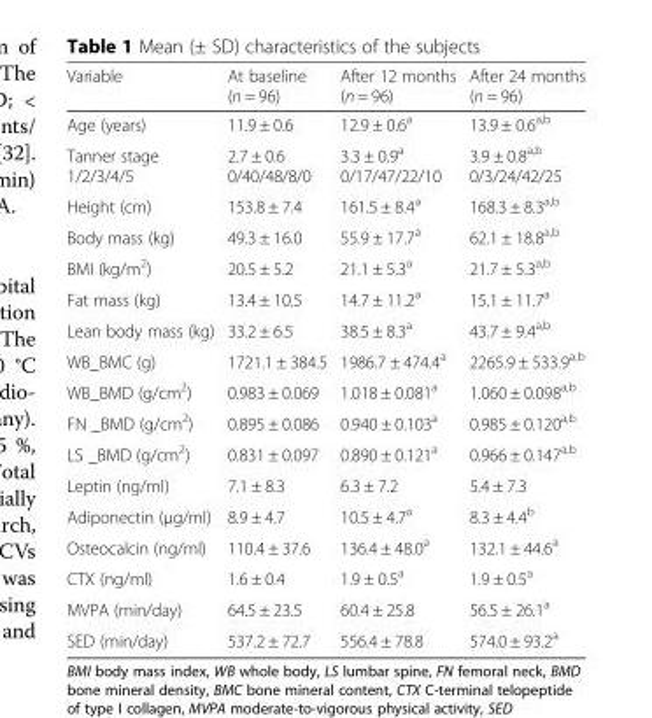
<table><thead><tr><td>Variable</td><td>At baseline (n = 96)</td><td>After 12 months (n = 96)</td><td>After 24 months (n = 96)</td></tr></thead><tbody><tr><td>Age (years)</td><td>11.9 ± 0.6</td><td>12.9 ± 0.6<sup>a</sup></td><td>13.9 ± 0.6<sup>a,b</sup></td></tr><tr><td>Tanner stage 1/2/3/4/5</td><td>2.7 ± 0.6 0/40/48/8/0</td><td>3.3 ± 0.9<sup>a</sup> 0/17/47/22/10</td><td>3.9 ± 0.8<sup>a,b</sup> 0/3/24/42/25</td></tr><tr><td>Height (cm)</td><td>153.8 ± 7.4</td><td>161.5 ± 8.4<sup>a</sup></td><td>168.3 ± 8.3<sup>a,b</sup></td></tr><tr><td>Body mass (kg)</td><td>49.3 ± 16.0</td><td>55.9 ± 17.7<sup>a</sup></td><td>62.1 ± 18.8<sup>a,b</sup></td></tr><tr><td>BMI (kg/m<sup>2</sup>)</td><td>20.5 ± 5.2</td><td>21.1 ± 5.3<sup>a</sup></td><td>21.7 ± 5.3<sup>a,b</sup></td></tr><tr><td>Fat mass (kg)</td><td>13.4 ± 10.5</td><td>14.7 ± 11.2<sup>a</sup></td><td>15.1 ± 11.7<sup>a</sup></td></tr><tr><td>Lean body mass (kg)</td><td>33.2 ± 6.5</td><td>38.5 ± 8.3<sup>a</sup></td><td>43.7 ± 9.4<sup>a,b</sup></td></tr><tr><td>WB_BMC (g)</td><td>1721.1 ± 384.5</td><td>1986.7 ± 474.4<sup>a</sup></td><td>2265.9 ± 533.9<sup>a,b</sup></td></tr><tr><td>WB_BMD (g/cm<sup>2</sup>)</td><td>0.983 ± 0.069</td><td>1.018 ± 0.081<sup>a</sup></td><td>1.060 ± 0.098<sup>a,b</sup></td></tr><tr><td>FN _BMD (g/cm<sup>2</sup>)</td><td>0.895 ± 0.086</td><td>0.940 ± 0.103<sup>a</sup></td><td>0.985 ± 0.120<sup>a,b</sup></td></tr><tr><td>LS _BMD (g/cm<sup>2</sup>)</td><td>0.831 ± 0.097</td><td>0.890 ± 0.121<sup>a</sup></td><td>0.966 ± 0.147<sup>a,b</sup></td></tr><tr><td>Leptin (ng/ml)</td><td>7.1 ± 8.3</td><td>6.3 ± 7.2</td><td>5.4 ± 7.3</td></tr><tr><td>Adiponectin (μg/ml)</td><td>8.9 ± 4.7</td><td>10.5 ± 4.7<sup>a</sup></td><td>8.3 ± 4.4<sup>b</sup></td></tr><tr><td>Osteocalcin (ng/ml)</td><td>110.4 ± 37.6</td><td>136.4 ± 48.0<sup>a</sup></td><td>132.1 ± 44.6<sup>a</sup></td></tr><tr><td>CTX (ng/ml)</td><td>1.6 ± 0.4</td><td>1.9 ± 0.5<sup>a</sup></td><td>1.9 ± 0.5<sup>a</sup></td></tr><tr><td>MVPA (min/day)</td><td>64.5 ± 23.5</td><td>60.4 ± 25.8</td><td>56.5 ± 26.1<sup>a</sup></td></tr><tr><td>SED (min/day)</td><td>537.2 ± 72.7</td><td>556.4 ± 78.8</td><td>574.0 ± 93.2<sup>a</sup></td></tr></tbody></table>